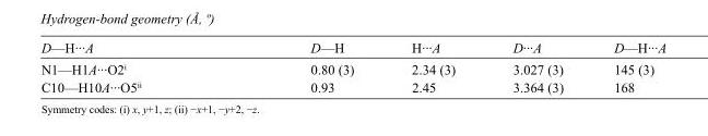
<table><tbody><tr><td>D—H···A</td><td>D—H</td><td>H···A</td><td>D···A</td><td>D—H···A</td></tr><tr><td>N1—H1A···O2<sup>i</sup></td><td>0.80 (3)</td><td>2.34 (3)</td><td>3.027 (3)</td><td>145 (3)</td></tr><tr><td>C10—H10A···O5<sup>ii</sup></td><td>0.93</td><td>2.45</td><td>3.364 (3)</td><td>168</td></tr></tbody></table>